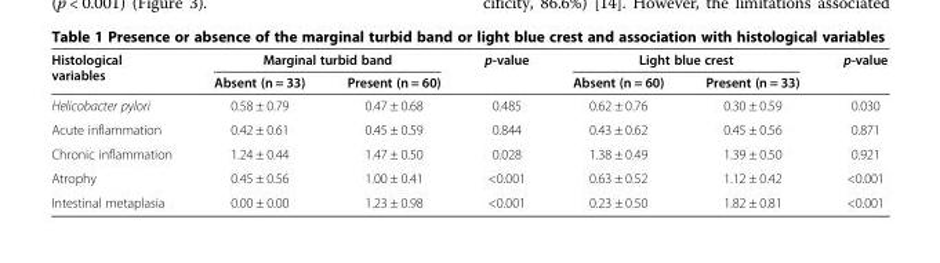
<table><thead><tr><td rowspan="2">Histological variables</td><td colspan="2">Marginal turbid band</td><td rowspan="2">p-value</td><td colspan="2">Light blue crest</td><td rowspan="2">p-value</td></tr><tr><td>Absent (n = 33)</td><td>Present (n = 60)</td><td>Absent (n = 60)</td><td>Present (n = 33)</td></tr></thead><tbody><tr><td>Helicobacter pylori</td><td>0.58 ± 0.79</td><td>0.47 ± 0.68</td><td>0.485</td><td>0.62 ± 0.76</td><td>0.30 ± 0.59</td><td>0.030</td></tr><tr><td>Acute inflammation</td><td>0.42 ± 0.61</td><td>0.45 ± 0.59</td><td>0.844</td><td>0.43 ± 0.62</td><td>0.45 ± 0.56</td><td>0.871</td></tr><tr><td>Chronic inflammation</td><td>1.24 ± 0.44</td><td>1.47 ± 0.50</td><td>0.028</td><td>1.38 ± 0.49</td><td>1.39 ± 0.50</td><td>0.921</td></tr><tr><td>Atrophy</td><td>0.45 ± 0.56</td><td>1.00 ± 0.41</td><td>&lt;0.001</td><td>0.63 ± 0.52</td><td>1.12 ± 0.42</td><td>&lt;0.001</td></tr><tr><td>Intestinal metaplasia</td><td>0.00 ± 0.00</td><td>1.23 ± 0.98</td><td>&lt;0.001</td><td>0.23 ± 0.50</td><td>1.82 ± 0.81</td><td>&lt;0.001</td></tr></tbody></table>